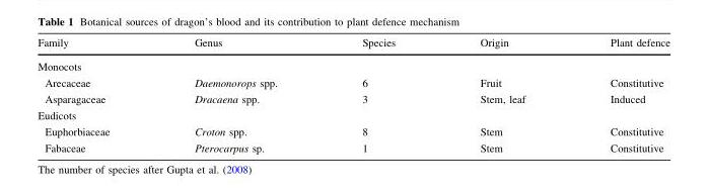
<table><thead><tr><td>Family</td><td>Genus</td><td>Species</td><td>Origin</td><td>Plant defence</td></tr></thead><tbody><tr><td colspan="5">Monocots</td></tr><tr><td>Arecaceae</td><td>Daemonorops spp.</td><td>6</td><td>Fruit</td><td>Constitutive</td></tr><tr><td>Asparagaceae</td><td>Dracaena spp.</td><td>3</td><td>Stem, leaf</td><td>Induced</td></tr><tr><td colspan="5">Eudicots</td></tr><tr><td>Euphorbiaceae</td><td>Croton spp.</td><td>8</td><td>Stem</td><td>Constitutive</td></tr><tr><td>Fabaceae</td><td>Pterocarpus sp.</td><td>1</td><td>Stem</td><td>Constitutive</td></tr></tbody></table>